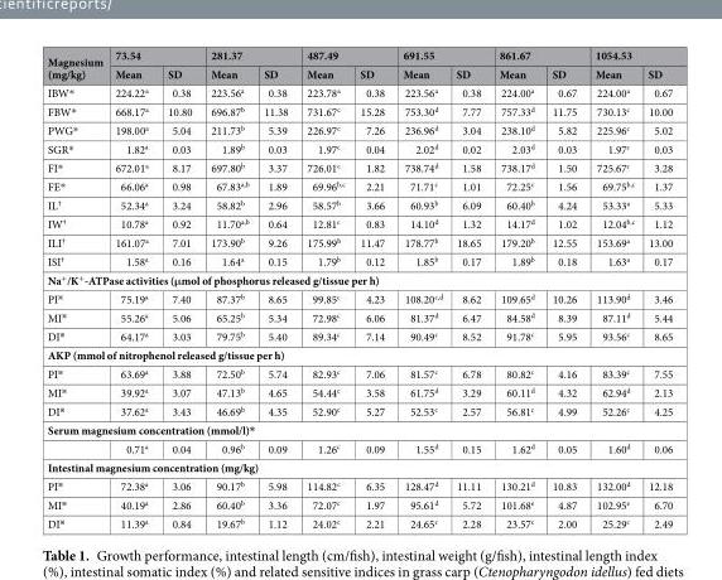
<table><thead><tr><td rowspan="2">Magnesium (mg/kg)</td><td colspan="2">73.54</td><td colspan="2">281.37</td><td colspan="2">487.49</td><td colspan="2">691.55</td><td colspan="2">861.67</td><td colspan="2">1054.53</td></tr><tr><td>Mean</td><td>SD</td><td>Mean</td><td>SD</td><td>Mean</td><td>SD</td><td>Mean</td><td>SD</td><td>Mean</td><td>SD</td><td>Mean</td><td>SD</td></tr></thead><tbody><tr><td>IBW*</td><td>224.22<sup>a</sup></td><td>0.38</td><td>223.56<sup>a</sup></td><td>0.38</td><td>223.78<sup>a</sup></td><td>0.38</td><td>223.56<sup>a</sup></td><td>0.38</td><td>224.00<sup>a</sup></td><td>0.67</td><td>224.00<sup>a</sup></td><td>0.67</td></tr><tr><td>FBW*</td><td>668.17<sup>a</sup></td><td>10.80</td><td>696.87<sup>b</sup></td><td>11.38</td><td>731.67<sup>c</sup></td><td>15.28</td><td>753.30<sup>d</sup></td><td>7.77</td><td>757.33<sup>d</sup></td><td>11.75</td><td>730.13<sup>c</sup></td><td>10.00</td></tr><tr><td>PWG*</td><td>198.00<sup>a</sup></td><td>5.04</td><td>211.73<sup>b</sup></td><td>5.39</td><td>226.97<sup>c</sup></td><td>7.26</td><td>236.96<sup>d</sup></td><td>3.04</td><td>238.10<sup>d</sup></td><td>5.82</td><td>225.96<sup>c</sup></td><td>5.02</td></tr><tr><td>SGR*</td><td>1.82<sup>a</sup></td><td>0.03</td><td>1.89<sup>b</sup></td><td>0.03</td><td>1.97<sup>c</sup></td><td>0.04</td><td>2.02<sup>d</sup></td><td>0.02</td><td>2.03<sup>d</sup></td><td>0.03</td><td>1.97<sup>c</sup></td><td>0.03</td></tr><tr><td>FI*</td><td>672.01<sup>a</sup></td><td>8.17</td><td>697.80<sup>b</sup></td><td>3.37</td><td>726.01<sup>c</sup></td><td>1.82</td><td>738.74<sup>d</sup></td><td>1.58</td><td>738.17<sup>d</sup></td><td>1.50</td><td>725.67<sup>c</sup></td><td>3.28</td></tr><tr><td>FE*</td><td>66.06<sup>a</sup></td><td>0.98</td><td>67.83<sup>a,b</sup></td><td>1.89</td><td>69.96<sup>b,c</sup></td><td>2.21</td><td>71.71<sup>c</sup></td><td>1.01</td><td>72.25<sup>c</sup></td><td>1.56</td><td>69.75<sup>b,c</sup></td><td>1.37</td></tr><tr><td>IL<sup>†</sup></td><td>52.34<sup>a</sup></td><td>3.24</td><td>58.82<sup>b</sup></td><td>2.96</td><td>58.57<sup>b</sup></td><td>3.66</td><td>60.93<sup>b</sup></td><td>6.09</td><td>60.40<sup>b</sup></td><td>4.24</td><td>53.33<sup>a</sup></td><td>5.33</td></tr><tr><td>IW<sup>†</sup></td><td>10.78<sup>a</sup></td><td>0.92</td><td>11.70<sup>a,b</sup></td><td>0.64</td><td>12.81<sup>c</sup></td><td>0.83</td><td>14.10<sup>d</sup></td><td>1.32</td><td>14.17<sup>d</sup></td><td>1.02</td><td>12.04<sup>b,c</sup></td><td>1.12</td></tr><tr><td>ILI<sup>†</sup></td><td>161.07<sup>a</sup></td><td>7.01</td><td>173.90<sup>b</sup></td><td>9.26</td><td>175.99<sup>b</sup></td><td>11.47</td><td>178.77<sup>b</sup></td><td>18.65</td><td>179.20<sup>b</sup></td><td>12.55</td><td>153.69<sup>a</sup></td><td>13.00</td></tr><tr><td>ISI<sup>†</sup></td><td>1.58<sup>a</sup></td><td>0.16</td><td>1.64<sup>a</sup></td><td>0.15</td><td>1.79<sup>b</sup></td><td>0.12</td><td>1.85<sup>b</sup></td><td>0.17</td><td>1.89<sup>b</sup></td><td>0.18</td><td>1.63<sup>a</sup></td><td>0.17</td></tr><tr><td colspan="13">Na<sup>+</sup>/K<sup>+</sup>-ATPase activities (μmol of phosphorus released g/tissue per h)</td></tr><tr><td>PI<sup>※</sup></td><td>75.19<sup>a</sup></td><td>7.40</td><td>87.37<sup>b</sup></td><td>8.65</td><td>99.85<sup>c</sup></td><td>4.23</td><td>108.20<sup>c,d</sup></td><td>8.62</td><td>109.65<sup>d</sup></td><td>10.26</td><td>113.90<sup>d</sup></td><td>3.46</td></tr><tr><td>MI<sup>※</sup></td><td>55.26<sup>a</sup></td><td>5.06</td><td>65.25<sup>b</sup></td><td>5.34</td><td>72.98<sup>c</sup></td><td>6.06</td><td>81.37<sup>d</sup></td><td>6.47</td><td>84.58<sup>d</sup></td><td>8.39</td><td>87.11<sup>d</sup></td><td>5.44</td></tr><tr><td>DI<sup>※</sup></td><td>64.17<sup>a</sup></td><td>3.03</td><td>79.75<sup>b</sup></td><td>5.40</td><td>89.34<sup>c</sup></td><td>7.14</td><td>90.49<sup>c</sup></td><td>8.52</td><td>91.78<sup>c</sup></td><td>5.95</td><td>93.56<sup>c</sup></td><td>8.65</td></tr><tr><td colspan="13">AKP (mmol of nitrophenol released g/tissue per h)</td></tr><tr><td>PI<sup>※</sup></td><td>63.69<sup>a</sup></td><td>3.88</td><td>72.50<sup>b</sup></td><td>5.74</td><td>82.93<sup>c</sup></td><td>7.06</td><td>81.57<sup>c</sup></td><td>6.78</td><td>80.82<sup>c</sup></td><td>4.16</td><td>83.39<sup>c</sup></td><td>7.55</td></tr><tr><td>MI<sup>※</sup></td><td>39.92<sup>a</sup></td><td>3.07</td><td>47.13<sup>b</sup></td><td>4.65</td><td>54.44<sup>c</sup></td><td>3.58</td><td>61.75<sup>d</sup></td><td>3.29</td><td>60.11<sup>d</sup></td><td>4.32</td><td>62.94<sup>d</sup></td><td>2.13</td></tr><tr><td>DI<sup>※</sup></td><td>37.62<sup>a</sup></td><td>3.43</td><td>46.69<sup>b</sup></td><td>4.35</td><td>52.90<sup>c</sup></td><td>5.27</td><td>52.53<sup>c</sup></td><td>2.57</td><td>56.81<sup>c</sup></td><td>4.99</td><td>52.26<sup>c</sup></td><td>4.25</td></tr><tr><td colspan="13">Serum magnesium concentration (mmol/l)*</td></tr><tr><td></td><td>0.71<sup>a</sup></td><td>0.04</td><td>0.96<sup>b</sup></td><td>0.09</td><td>1.26<sup>c</sup></td><td>0.09</td><td>1.55<sup>d</sup></td><td>0.15</td><td>1.62<sup>d</sup></td><td>0.05</td><td>1.60<sup>d</sup></td><td>0.06</td></tr><tr><td colspan="13">Intestinal magnesium concentration (mg/kg)</td></tr><tr><td>PI<sup>※</sup></td><td>72.38<sup>a</sup></td><td>3.06</td><td>90.17<sup>b</sup></td><td>5.98</td><td>114.82<sup>c</sup></td><td>6.35</td><td>128.47<sup>d</sup></td><td>11.11</td><td>130.21<sup>d</sup></td><td>10.83</td><td>132.00<sup>d</sup></td><td>12.18</td></tr><tr><td>MI<sup>※</sup></td><td>40.19<sup>a</sup></td><td>2.86</td><td>60.40<sup>b</sup></td><td>3.36</td><td>72.07<sup>c</sup></td><td>1.97</td><td>95.61<sup>d</sup></td><td>5.72</td><td>101.68<sup>e</sup></td><td>4.87</td><td>102.95<sup>e</sup></td><td>6.70</td></tr><tr><td>DI<sup>※</sup></td><td>11.39<sup>a</sup></td><td>0.84</td><td>19.67<sup>b</sup></td><td>1.12</td><td>24.02<sup>c</sup></td><td>2.21</td><td>24.65<sup>c</sup></td><td>2.28</td><td>23.57<sup>c</sup></td><td>2.00</td><td>25.29<sup>c</sup></td><td>2.49</td></tr></tbody></table>